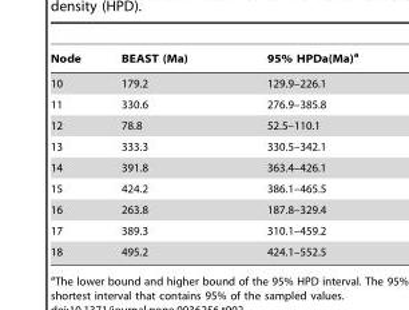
<table><thead><tr><td>Node</td><td>BEAST (Ma)</td><td>95% HPDa(Ma)<sup>a</sup></td></tr></thead><tbody><tr><td>10</td><td>179.2</td><td>129.9–226.1</td></tr><tr><td>11</td><td>330.6</td><td>276.9–385.8</td></tr><tr><td>12</td><td>78.8</td><td>52.5–110.1</td></tr><tr><td>13</td><td>333.3</td><td>330.5–342.1</td></tr><tr><td>14</td><td>391.8</td><td>363.4–426.1</td></tr><tr><td>15</td><td>424.2</td><td>386.1–465.5</td></tr><tr><td>16</td><td>263.8</td><td>187.8–329.4</td></tr><tr><td>17</td><td>389.3</td><td>310.1–459.2</td></tr><tr><td>18</td><td>495.2</td><td>424.1–552.5</td></tr></tbody></table>